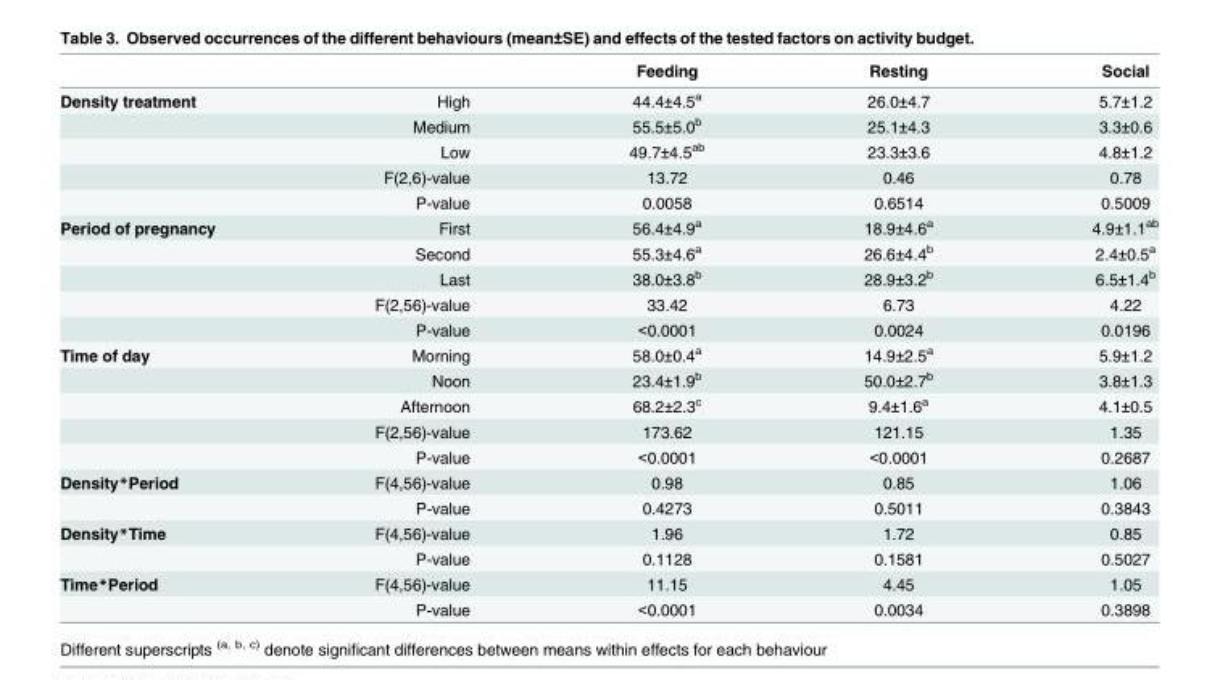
<table><thead><tr><td></td><td></td><td>Feeding</td><td>Resting</td><td>Social</td></tr></thead><tbody><tr><td rowspan="5">Density treatment</td><td>High</td><td>44.4±4.5<sup>a</sup></td><td>26.0±4.7</td><td>5.7±1.2</td></tr><tr><td>Medium</td><td>55.5±5.0<sup>b</sup></td><td>25.1±4.3</td><td>3.3±0.6</td></tr><tr><td>Low</td><td>49.7±4.5<sup>ab</sup></td><td>23.3±3.6</td><td>4.8±1.2</td></tr><tr><td>F(2,6)-value</td><td>13.72</td><td>0.46</td><td>0.78</td></tr><tr><td>P-value</td><td>0.0058</td><td>0.6514</td><td>0.5009</td></tr><tr><td rowspan="5">Period of pregnancy</td><td>First</td><td>56.4±4.9<sup>a</sup></td><td>18.9±4.6<sup>a</sup></td><td>4.9±1.1<sup>ab</sup></td></tr><tr><td>Second</td><td>55.3±4.6<sup>a</sup></td><td>26.6±4.4<sup>b</sup></td><td>2.4±0.5<sup>a</sup></td></tr><tr><td>Last</td><td>38.0±3.8<sup>b</sup></td><td>28.9±3.2<sup>b</sup></td><td>6.5±1.4<sup>b</sup></td></tr><tr><td>F(2,56)-value</td><td>33.42</td><td>6.73</td><td>4.22</td></tr><tr><td>P-value</td><td>&lt;0.0001</td><td>0.0024</td><td>0.0196</td></tr><tr><td rowspan="5">Time of day</td><td>Morning</td><td>58.0±0.4<sup>a</sup></td><td>14.9±2.5<sup>a</sup></td><td>5.9±1.2</td></tr><tr><td>Noon</td><td>23.4±1.9<sup>b</sup></td><td>50.0±2.7<sup>b</sup></td><td>3.8±1.3</td></tr><tr><td>Afternoon</td><td>68.2±2.3<sup>c</sup></td><td>9.4±1.6<sup>a</sup></td><td>4.1±0.5</td></tr><tr><td>F(2,56)-value</td><td>173.62</td><td>121.15</td><td>1.35</td></tr><tr><td>P-value</td><td>&lt;0.0001</td><td>&lt;0.0001</td><td>0.2687</td></tr><tr><td rowspan="2">Density*Period</td><td>F(4,56)-value</td><td>0.98</td><td>0.85</td><td>1.06</td></tr><tr><td>P-value</td><td>0.4273</td><td>0.5011</td><td>0.3843</td></tr><tr><td rowspan="2">Density*Time</td><td>F(4,56)-value</td><td>1.96</td><td>1.72</td><td>0.85</td></tr><tr><td>P-value</td><td>0.1128</td><td>0.1581</td><td>0.5027</td></tr><tr><td rowspan="2">Time*Period</td><td>F(4,56)-value</td><td>11.15</td><td>4.45</td><td>1.05</td></tr><tr><td>P-value</td><td>&lt;0.0001</td><td>0.0034</td><td>0.3898</td></tr></tbody></table>